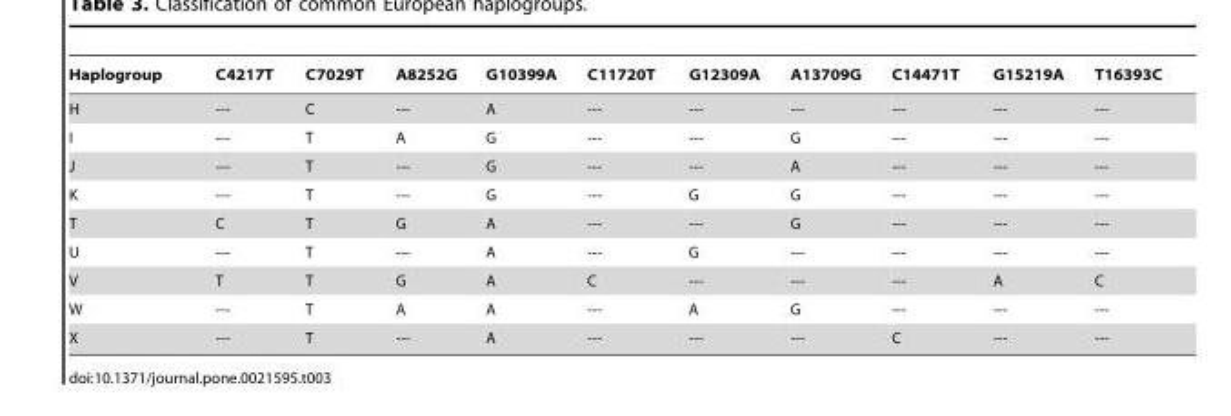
<table><thead><tr><td>Haplogroup</td><td>C4217T</td><td>C7029T</td><td>A8252G</td><td>G10399A</td><td>C11720T</td><td>G12309A</td><td>A13709G</td><td>C14471T</td><td>G15219A</td><td>T16393C</td></tr></thead><tbody><tr><td>H</td><td>---</td><td>C</td><td>---</td><td>A</td><td>---</td><td>---</td><td>---</td><td>---</td><td>---</td><td>---</td></tr><tr><td>I</td><td>---</td><td>T</td><td>A</td><td>G</td><td>---</td><td>---</td><td>G</td><td>---</td><td>---</td><td>---</td></tr><tr><td>J</td><td>---</td><td>T</td><td>---</td><td>G</td><td>---</td><td>---</td><td>A</td><td>---</td><td>---</td><td>---</td></tr><tr><td>K</td><td>---</td><td>T</td><td>---</td><td>G</td><td>---</td><td>G</td><td>G</td><td>---</td><td>---</td><td>---</td></tr><tr><td>T</td><td>C</td><td>T</td><td>G</td><td>A</td><td>---</td><td>---</td><td>G</td><td>---</td><td>---</td><td>---</td></tr><tr><td>U</td><td>---</td><td>T</td><td>---</td><td>A</td><td>---</td><td>G</td><td>---</td><td>---</td><td>---</td><td>---</td></tr><tr><td>V</td><td>T</td><td>T</td><td>G</td><td>A</td><td>C</td><td>---</td><td>---</td><td>---</td><td>A</td><td>C</td></tr><tr><td>W</td><td>---</td><td>T</td><td>A</td><td>A</td><td>---</td><td>A</td><td>G</td><td>---</td><td>---</td><td>---</td></tr><tr><td>X</td><td>---</td><td>T</td><td>---</td><td>A</td><td>---</td><td>---</td><td>---</td><td>C</td><td>---</td><td>---</td></tr></tbody></table>